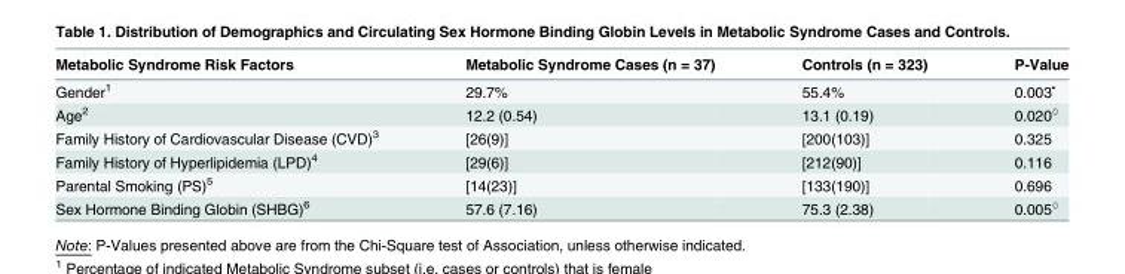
<table><thead><tr><td>Metabolic Syndrome Risk Factors</td><td>Metabolic Syndrome Cases (n = 37)</td><td>Controls (n = 323)</td><td>P-Value</td></tr></thead><tbody><tr><td>Gender<sup>1</sup></td><td>29.7%</td><td>55.4%</td><td>0.003<sup>▪</sup></td></tr><tr><td>Age<sup>2</sup></td><td>12.2 (0.54)</td><td>13.1 (0.19)</td><td>0.020<sup>◊</sup></td></tr><tr><td>Family History of Cardiovascular Disease (CVD)<sup>3</sup></td><td>[26(9)]</td><td>[200(103)]</td><td>0.325</td></tr><tr><td>Family History of Hyperlipidemia (LPD)<sup>4</sup></td><td>[29(6)]</td><td>[212(90)]</td><td>0.116</td></tr><tr><td>Parental Smoking (PS)<sup>5</sup></td><td>[14(23)]</td><td>[133(190)]</td><td>0.696</td></tr><tr><td>Sex Hormone Binding Globin (SHBG)<sup>6</sup></td><td>57.6 (7.16)</td><td>75.3 (2.38)</td><td>0.005<sup>◊</sup></td></tr></tbody></table>